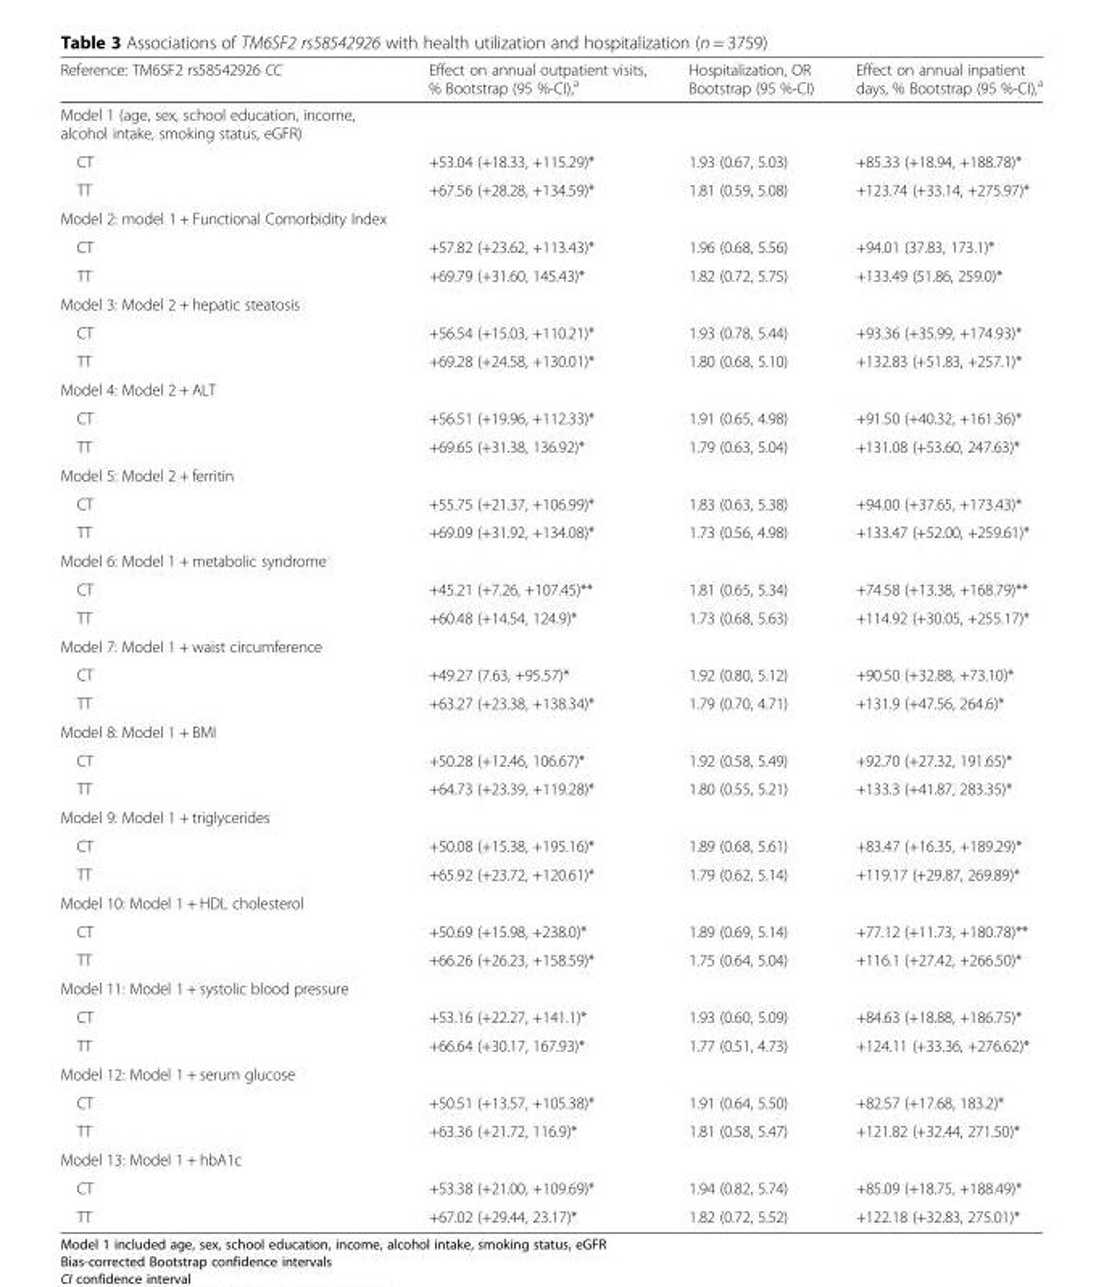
<table><thead><tr><td>Reference: TM6SF2 rs58542926 CC</td><td>Effect on annual outpatient visits, % Bootstrap (95 %-CI),<sup>a</sup></td><td>Hospitalization, OR Bootstrap (95 %-CI)</td><td>Effect on annual inpatient days, % Bootstrap (95 %-CI),<sup>a</sup></td></tr></thead><tbody><tr><td colspan="4">Model 1 (age, sex, school education, income, alcohol intake, smoking status, eGFR)</td></tr><tr><td>CT</td><td>+53.04 (+18.33, +115.29)*</td><td>1.93 (0.67, 5.03)</td><td>+85.33 (+18.94, +188.78)*</td></tr><tr><td>TT</td><td>+67.56 (+28.28, +134.59)*</td><td>1.81 (0.59, 5.08)</td><td>+123.74 (+33.14, +275.97)*</td></tr><tr><td colspan="4">Model 2: model 1 + Functional Comorbidity Index</td></tr><tr><td>CT</td><td>+57.82 (+23.62, +113.43)*</td><td>1.96 (0.68, 5.56)</td><td>+94.01 (37.83, 173.1)*</td></tr><tr><td>TT</td><td>+69.79 (+31.60, 145.43)*</td><td>1.82 (0.72, 5.75)</td><td>+133.49 (51.86, 259.0)*</td></tr><tr><td colspan="4">Model 3: Model 2 + hepatic steatosis</td></tr><tr><td>CT</td><td>+56.54 (+15.03, +110.21)*</td><td>1.93 (0.78, 5.44)</td><td>+93.36 (+35.99, +174.93)*</td></tr><tr><td>TT</td><td>+69.28 (+24.58, +130.01)*</td><td>1.80 (0.68, 5.10)</td><td>+132.83 (+51.83, +257.1)*</td></tr><tr><td colspan="4">Model 4: Model 2 + ALT</td></tr><tr><td>CT</td><td>+56.51 (+19.96, +112.33)*</td><td>1.91 (0.65, 4.98)</td><td>+91.50 (+40.32, +161.36)*</td></tr><tr><td>TT</td><td>+69.65 (+31.38, 136.92)*</td><td>1.79 (0.63, 5.04)</td><td>+131.08 (+53.60, 247.63)*</td></tr><tr><td colspan="4">Model 5: Model 2 + ferritin</td></tr><tr><td>CT</td><td>+55.75 (+21.37, +106.99)*</td><td>1.83 (0.63, 5.38)</td><td>+94.00 (+37.65, +173.43)*</td></tr><tr><td>TT</td><td>+69.09 (+31.92, +134.08)*</td><td>1.73 (0.56, 4.98)</td><td>+133.47 (+52.00, +259.61)*</td></tr><tr><td colspan="4">Model 6: Model 1 + metabolic syndrome</td></tr><tr><td>CT</td><td>+45.21 (+7.26, +107.45)**</td><td>1.81 (0.65, 5.34)</td><td>+74.58 (+13.38, +168.79)**</td></tr><tr><td>TT</td><td>+60.48 (+14.54, 124.9)*</td><td>1.73 (0.68, 5.63)</td><td>+114.92 (+30.05, +255.17)*</td></tr><tr><td colspan="4">Model 7: Model 1 + waist circumference</td></tr><tr><td>CT</td><td>+49.27 (7.63, +95.57)*</td><td>1.92 (0.80, 5.12)</td><td>+90.50 (+32.88, +73.10)*</td></tr><tr><td>TT</td><td>+63.27 (+23.38, +138.34)*</td><td>1.79 (0.70, 4.71)</td><td>+131.9 (+47.56, 264.6)*</td></tr><tr><td colspan="4">Model 8: Model 1 + BMI</td></tr><tr><td>CT</td><td>+50.28 (+12.46, 106.67)*</td><td>1.92 (0.58, 5.49)</td><td>+92.70 (+27.32, 191.65)*</td></tr><tr><td>TT</td><td>+64.73 (+23.39, +119.28)*</td><td>1.80 (0.55, 5.21)</td><td>+133.3 (+41.87, 283.35)*</td></tr><tr><td colspan="4">Model 9: Model 1 + triglycerides</td></tr><tr><td>CT</td><td>+50.08 (+15.38, +195.16)*</td><td>1.89 (0.68, 5.61)</td><td>+83.47 (+16.35, +189.29)*</td></tr><tr><td>TT</td><td>+65.92 (+23.72, +120.61)*</td><td>1.79 (0.62, 5.14)</td><td>+119.17 (+29.87, 269.89)*</td></tr><tr><td colspan="4">Model 10: Model 1 + HDL cholesterol</td></tr><tr><td>CT</td><td>+50.69 (+15.98, +238.0)*</td><td>1.89 (0.69, 5.14)</td><td>+77.12 (+11.73, +180.78)**</td></tr><tr><td>TT</td><td>+66.26 (+26.23, +158.59)*</td><td>1.75 (0.64, 5.04)</td><td>+116.1 (+27.42, +266.50)*</td></tr><tr><td colspan="4">Model 11: Model 1 + systolic blood pressure</td></tr><tr><td>CT</td><td>+53.16 (+22.27, +141.1)*</td><td>1.93 (0.60, 5.09)</td><td>+84.63 (+18.88, +186.75)*</td></tr><tr><td>TT</td><td>+66.64 (+30.17, 167.93)*</td><td>1.77 (0.51, 4.73)</td><td>+124.11 (+33.36, +276.62)*</td></tr><tr><td colspan="4">Model 12: Model 1 + serum glucose</td></tr><tr><td>CT</td><td>+50.51 (+13.57, +105.38)*</td><td>1.91 (0.64, 5.50)</td><td>+82.57 (+17.68, 183.2)*</td></tr><tr><td>TT</td><td>+63.36 (+21.72, 116.9)*</td><td>1.81 (0.58, 5.47)</td><td>+121.82 (+32.44, 271.50)*</td></tr><tr><td colspan="4">Model 13: Model 1 + hbA1c</td></tr><tr><td>CT</td><td>+53.38 (+21.00, +109.69)*</td><td>1.94 (0.82, 5.74)</td><td>+85.09 (+18.75, +188.49)*</td></tr><tr><td>TT</td><td>+67.02 (+29.44, 23.17)*</td><td>1.82 (0.72, 5.52)</td><td>+122.18 (+32.83, 275.01)*</td></tr></tbody></table>